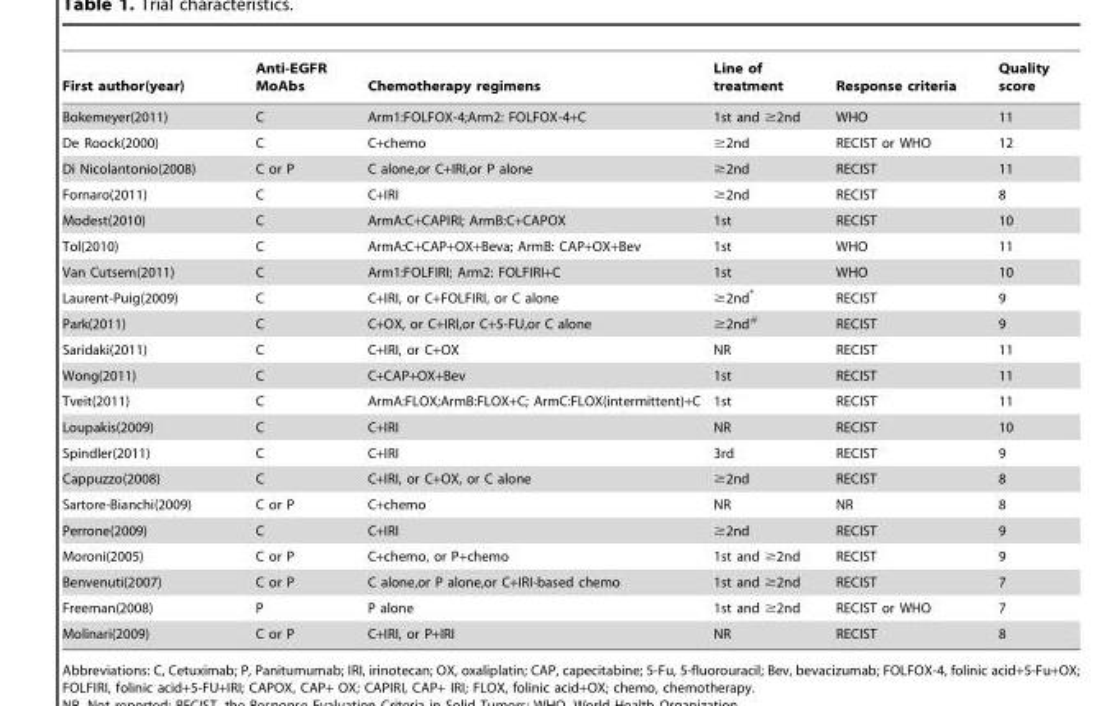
<table><thead><tr><td>First author(year)</td><td>Anti-EGFR MoAbs</td><td>Chemotherapy regimens</td><td>Line of treatment</td><td>Response criteria</td><td>Quality score</td></tr></thead><tbody><tr><td>Bokemeyer(2011)</td><td>C</td><td>Arm1:FOLFOX-4;Arm2: FOLFOX-4+C</td><td>1st and ≥2nd</td><td>WHO</td><td>11</td></tr><tr><td>De Roock(2000)</td><td>C</td><td>C+chemo</td><td>≥2nd</td><td>RECIST or WHO</td><td>12</td></tr><tr><td>Di Nicolantonio(2008)</td><td>C or P</td><td>C alone,or C+IRI,or P alone</td><td>≥2nd</td><td>RECIST</td><td>11</td></tr><tr><td>Fornaro(2011)</td><td>C</td><td>C+IRI</td><td>≥2nd</td><td>RECIST</td><td>8</td></tr><tr><td>Modest(2010)</td><td>C</td><td>ArmA:C+CAPIRI; ArmB:C+CAPOX</td><td>1st</td><td>RECIST</td><td>10</td></tr><tr><td>Tol(2010)</td><td>C</td><td>ArmA:C+CAP+OX+Beva; ArmB: CAP+OX+Bev</td><td>1st</td><td>WHO</td><td>11</td></tr><tr><td>Van Cutsem(2011)</td><td>C</td><td>Arm1:FOLFIRI; Arm2: FOLFIRI+C</td><td>1st</td><td>WHO</td><td>10</td></tr><tr><td>Laurent-Puig(2009)</td><td>C</td><td>C+IRI, or C+FOLFIRI, or C alone</td><td>≥2nd*</td><td>RECIST</td><td>9</td></tr><tr><td>Park(2011)</td><td>C</td><td>C+OX, or C+IRI,or C+5-FU,or C alone</td><td>≥2nd<sup>#</sup></td><td>RECIST</td><td>9</td></tr><tr><td>Saridaki(2011)</td><td>C</td><td>C+IRI, or C+OX</td><td>NR</td><td>RECIST</td><td>11</td></tr><tr><td>Wong(2011)</td><td>C</td><td>C+CAP+OX+Bev</td><td>1st</td><td>RECIST</td><td>11</td></tr><tr><td>Tveit(2011)</td><td>C</td><td>ArmA:FLOX;ArmB:FLOX+C; ArmC:FLOX(intermittent)+C</td><td>1st</td><td>RECIST</td><td>11</td></tr><tr><td>Loupakis(2009)</td><td>C</td><td>C+IRI</td><td>NR</td><td>RECIST</td><td>10</td></tr><tr><td>Spindler(2011)</td><td>C</td><td>C+IRI</td><td>3rd</td><td>RECIST</td><td>9</td></tr><tr><td>Cappuzzo(2008)</td><td>C</td><td>C+IRI, or C+OX, or C alone</td><td>≥2nd</td><td>RECIST</td><td>8</td></tr><tr><td>Sartore-Bianchi(2009)</td><td>C or P</td><td>C+chemo</td><td>NR</td><td>NR</td><td>8</td></tr><tr><td>Perrone(2009)</td><td>C</td><td>C+IRI</td><td>≥2nd</td><td>RECIST</td><td>9</td></tr><tr><td>Moroni(2005)</td><td>C or P</td><td>C+chemo, or P+chemo</td><td>1st and ≥2nd</td><td>RECIST</td><td>9</td></tr><tr><td>Benvenuti(2007)</td><td>C or P</td><td>C alone,or P alone,or C+IRI-based chemo</td><td>1st and ≥2nd</td><td>RECIST</td><td>7</td></tr><tr><td>Freeman(2008)</td><td>P</td><td>P alone</td><td>1st and ≥2nd</td><td>RECIST or WHO</td><td>7</td></tr><tr><td>Molinari(2009)</td><td>C or P</td><td>C+IRI, or P+IRI</td><td>NR</td><td>RECIST</td><td>8</td></tr></tbody></table>